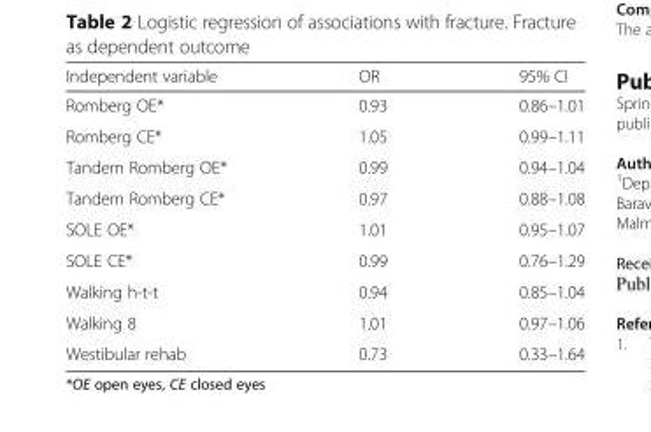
<table><thead><tr><td>Independent variable</td><td>OR</td><td>95% CI</td></tr></thead><tbody><tr><td>Romberg OE*</td><td>0.93</td><td>0.86–1.01</td></tr><tr><td>Romberg CE*</td><td>1.05</td><td>0.99–1.11</td></tr><tr><td>Tandem Romberg OE*</td><td>0.99</td><td>0.94–1.04</td></tr><tr><td>Tandem Romberg CE*</td><td>0.97</td><td>0.88–1.08</td></tr><tr><td>SOLE OE*</td><td>1.01</td><td>0.95–1.07</td></tr><tr><td>SOLE CE*</td><td>0.99</td><td>0.76–1.29</td></tr><tr><td>Walking h-t-t</td><td>0.94</td><td>0.85–1.04</td></tr><tr><td>Walking 8</td><td>1.01</td><td>0.97–1.06</td></tr><tr><td>Westibular rehab</td><td>0.73</td><td>0.33–1.64</td></tr></tbody></table>